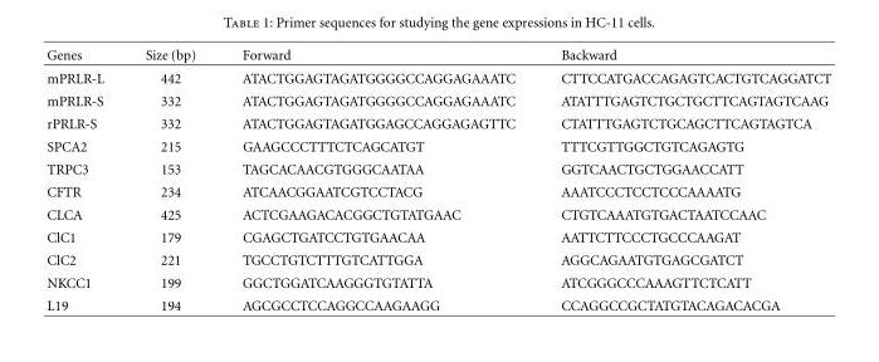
<table><thead><tr><td>Genes</td><td>Size (bp)</td><td>Forward</td><td>Backward</td></tr></thead><tbody><tr><td>mPRLR-L</td><td>442</td><td>ATACTGGAGTAGATGGGGCCAGGAGAAATC</td><td>CTTCCATGACCAGAGTCACTGTCAGGATCT</td></tr><tr><td>mPRLR-S</td><td>332</td><td>ATACTGGAGTAGATGGGGCCAGGAGAAATC</td><td>ATATTTGAGTCTGCTGCTTCAGTAGTCAAG</td></tr><tr><td>rPRLR-S</td><td>332</td><td>ATACTGGAGTAGATGGAGCCAGGAGAGTTC</td><td>CTATTTGAGTCTGCAGCTTCAGTAGTCA</td></tr><tr><td>SPCA2</td><td>215</td><td>GAAGCCCTTTCTCAGCATGT</td><td>TTTCGTTGGCTGTCAGAGTG</td></tr><tr><td>TRPC3</td><td>153</td><td>TAGCACAACGTGGGCAATAA</td><td>GGTCAACTGCTGGAACCATT</td></tr><tr><td>CFTR</td><td>234</td><td>ATCAACGGAATCGTCCTACG</td><td>AAATCCCTCCTCCCAAAATG</td></tr><tr><td>CLCA</td><td>425</td><td>ACTCGAAGACACGGCTGTATGAAC</td><td>CTGTCAAATGTGACTAATCCAAC</td></tr><tr><td>ClC1</td><td>179</td><td>CGAGCTGATCCTGTGAACAA</td><td>AATTCTTCCCTGCCCAAGAT</td></tr><tr><td>ClC2</td><td>221</td><td>TGCCTGTCTTTGTCATTGGA</td><td>AGGCAGAATGTGAGCGATCT</td></tr><tr><td>NKCC1</td><td>199</td><td>GGCTGGATCAAGGGTGTATTA</td><td>ATCGGGCCCAAAGTTCTCATT</td></tr><tr><td>L19</td><td>194</td><td>AGCGCCTCCAGGCCAAGAAGG</td><td>CCAGGCCGCTATGTACAGACACGA</td></tr></tbody></table>